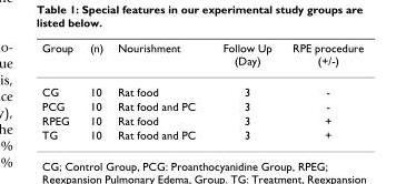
<table><thead><tr><td>Group</td><td>(n)</td><td>Nourishment</td><td>Follow Up (Day)</td><td>RPE procedure (+/-)</td></tr></thead><tbody><tr><td>CG</td><td>10</td><td>Rat food</td><td>3</td><td>-</td></tr><tr><td>PCG</td><td>10</td><td>Rat food and PC</td><td>3</td><td>-</td></tr><tr><td>RPEG</td><td>10</td><td>Rat food</td><td>3</td><td>+</td></tr><tr><td>TG</td><td>10</td><td>Rat food and PC</td><td>3</td><td>+</td></tr></tbody></table>